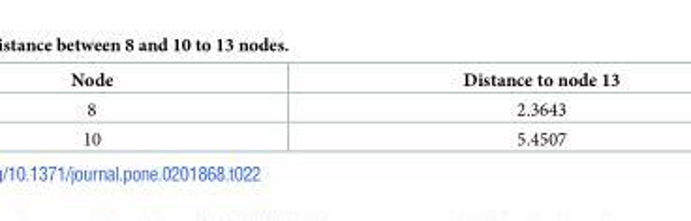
<table><thead><tr><td>Node</td><td>Distance to node 13</td></tr></thead><tbody><tr><td>8</td><td>2.3643</td></tr><tr><td>10</td><td>5.4507</td></tr></tbody></table>